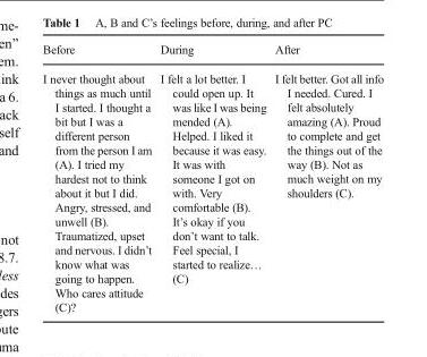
<table><thead><tr><td>Before</td><td>During</td><td>After</td></tr></thead><tbody><tr><td>I never thought about things as much until I started. I thought a bit but I was a different person from the person I am (A). I tried my hardest not to think about it but I did. Angry, stressed, and unwell (B). Traumatized, upset and nervous. I didn’t know what was going to happen. Who cares attitude (C)?</td><td>I felt a lot better. I could open up. It was like I was being mended (A). Helped. I liked it because it was easy. It was with someone I got on with. Very comfortable (B). It’s okay if you don’t want to talk. Feel special, I started to realize… (C)</td><td>I felt better. Got all info I needed. Cured. I felt absolutely amazing (A). Proud to complete and get the things out of the way (B). Not as much weight on my shoulders (C).</td></tr></tbody></table>